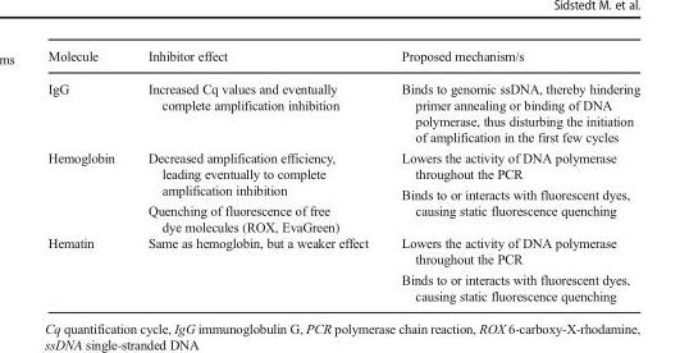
<table><thead><tr><td>Molecule</td><td>Inhibitor effect</td><td>Proposed mechanism/s</td></tr></thead><tbody><tr><td>IgG</td><td>Increased Cq values and eventually complete amplification inhibition</td><td>Binds to genomic ssDNA, thereby hindering primer annealing or binding of DNA polymerase, thus disturbing the initiation of amplification in the first few cycles</td></tr><tr><td>Hemoglobin</td><td>Decreased amplification efficiency, leading eventually to complete amplification inhibition Quenching of fluorescence of free dye molecules (ROX, EvaGreen)</td><td>Lowers the activity of DNA polymerase throughout the PCR Binds to or interacts with fluorescent dyes, causing static fluorescence quenching</td></tr><tr><td>Hematin</td><td>Same as hemoglobin, but a weaker effect</td><td>Lowers the activity of DNA polymerase throughout the PCR Binds to or interacts with fluorescent dyes, causing static fluorescence quenching</td></tr></tbody></table>